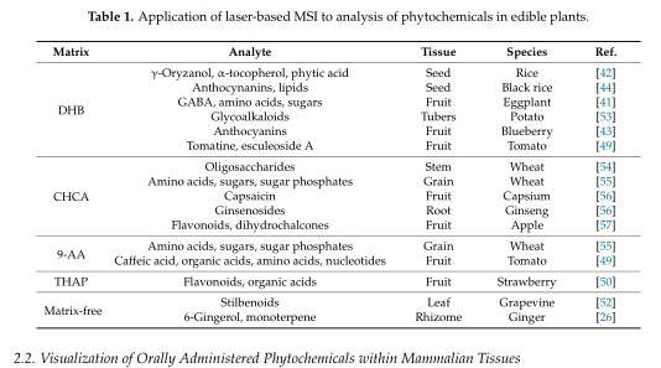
<table><thead><tr><td>Matrix</td><td>Analyte</td><td>Tissue</td><td>Species</td><td>Ref.</td></tr></thead><tbody><tr><td rowspan="6">DHB</td><td>γ-Oryzanol, α-tocopherol, phytic acid</td><td>Seed</td><td>Rice</td><td>[42]</td></tr><tr><td>Anthocynanins, lipids</td><td>Seed</td><td>Black rice</td><td>[44]</td></tr><tr><td>GABA, amino acids, sugars</td><td>Fruit</td><td>Eggplant</td><td>[41]</td></tr><tr><td>Glycoalkaloids</td><td>Tubers</td><td>Potato</td><td>[53]</td></tr><tr><td>Anthocyanins</td><td>Fruit</td><td>Blueberry</td><td>[43]</td></tr><tr><td>Tomatine, esculeoside A</td><td>Fruit</td><td>Tomato</td><td>[49]</td></tr><tr><td rowspan="5">CHCA</td><td>Oligosaccharides</td><td>Stem</td><td>Wheat</td><td>[54]</td></tr><tr><td>Amino acids, sugars, sugar phosphates</td><td>Grain</td><td>Wheat</td><td>[55]</td></tr><tr><td>Capsaicin</td><td>Fruit</td><td>Capsium</td><td>[56]</td></tr><tr><td>Ginsenosides</td><td>Root</td><td>Ginseng</td><td>[56]</td></tr><tr><td>Flavonoids, dihydrochalcones</td><td>Fruit</td><td>Apple</td><td>[57]</td></tr><tr><td rowspan="2">9-AA</td><td>Amino acids, sugars, sugar phosphates</td><td>Grain</td><td>Wheat</td><td>[55]</td></tr><tr><td>Caffeic acid, organic acids, amino acids, nucleotides</td><td>Fruit</td><td>Tomato</td><td>[49]</td></tr><tr><td>THAP</td><td>Flavonoids, organic acids</td><td>Fruit</td><td>Strawberry</td><td>[50]</td></tr><tr><td rowspan="2">Matrix-free</td><td>Stilbenoids</td><td>Leaf</td><td>Grapevine</td><td>[52]</td></tr><tr><td>6-Gingerol, monoterpene</td><td>Rhizome</td><td>Ginger</td><td>[26]</td></tr></tbody></table>